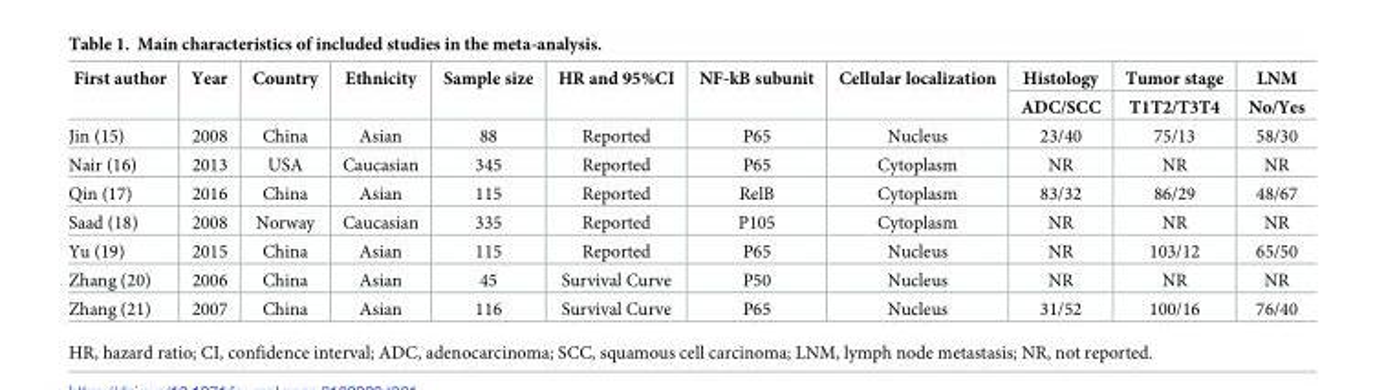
<table><thead><tr><td rowspan="2">First author</td><td rowspan="2">Year</td><td rowspan="2">Country</td><td rowspan="2">Ethnicity</td><td rowspan="2">Sample size</td><td rowspan="2">HR and 95%CI</td><td rowspan="2">NF-kB subunit</td><td rowspan="2">Cellular localization</td><td rowspan="2">Histology ADC/SCC</td><td rowspan="2">Tumor stage T1T2/T3T4</td><td rowspan="2">LNM No/Yes</td></tr><tr></tr></thead><tbody><tr><td>Jin (15)</td><td>2008</td><td>China</td><td>Asian</td><td>88</td><td>Reported</td><td>P65</td><td>Nucleus</td><td>23/40</td><td>75/13</td><td>58/30</td></tr><tr><td>Nair (16)</td><td>2013</td><td>USA</td><td>Caucasian</td><td>345</td><td>Reported</td><td>P65</td><td>Cytoplasm</td><td>NR</td><td>NR</td><td>NR</td></tr><tr><td>Qin (17)</td><td>2016</td><td>China</td><td>Asian</td><td>115</td><td>Reported</td><td>RelB</td><td>Cytoplasm</td><td>83/32</td><td>86/29</td><td>48/67</td></tr><tr><td>Saad (18)</td><td>2008</td><td>Norway</td><td>Caucasian</td><td>335</td><td>Reported</td><td>P105</td><td>Cytoplasm</td><td>NR</td><td>NR</td><td>NR</td></tr><tr><td>Yu (19)</td><td>2015</td><td>China</td><td>Asian</td><td>115</td><td>Reported</td><td>P65</td><td>Nucleus</td><td>NR</td><td>103/12</td><td>65/50</td></tr><tr><td>Zhang (20)</td><td>2006</td><td>China</td><td>Asian</td><td>45</td><td>Survival Curve</td><td>P50</td><td>Nucleus</td><td>NR</td><td>NR</td><td>NR</td></tr><tr><td>Zhang (21)</td><td>2007</td><td>China</td><td>Asian</td><td>116</td><td>Survival Curve</td><td>P65</td><td>Nucleus</td><td>31/52</td><td>100/16</td><td>76/40</td></tr></tbody></table>